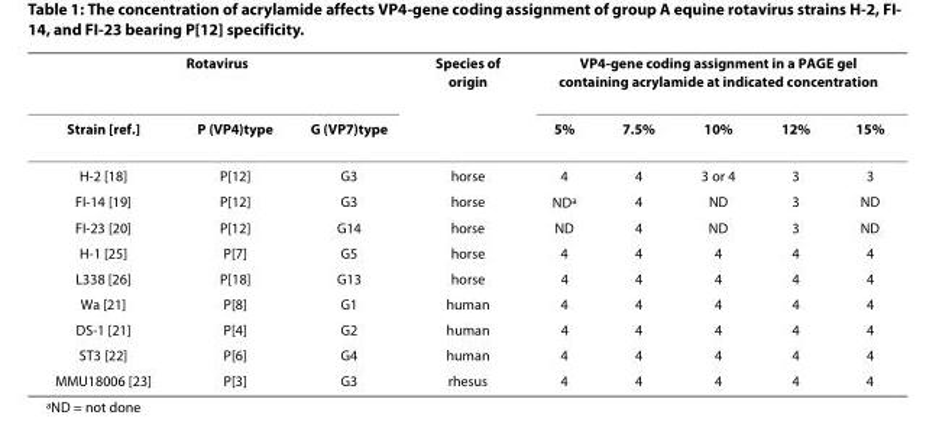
<table><thead><tr><td colspan="3">Rotavirus</td><td rowspan="2">Species of origin</td><td colspan="5">VP4-gene coding assignment in a PAGE gel containing acrylamide at indicated concentration</td></tr><tr><td>Strain [ref.]</td><td>P (VP4)type</td><td>G (VP7)type</td><td>5%</td><td>7.5%</td><td>10%</td><td>12%</td><td>15%</td></tr></thead><tbody><tr><td>H-2 [18]</td><td>P[12]</td><td>G3</td><td>horse</td><td>4</td><td>4</td><td>3 or 4</td><td>3</td><td>3</td></tr><tr><td>FI-14 [19]</td><td>P[12]</td><td>G3</td><td>horse</td><td>ND<sup>a</sup></td><td>4</td><td>ND</td><td>3</td><td>ND</td></tr><tr><td>FI-23 [20]</td><td>P[12]</td><td>G14</td><td>horse</td><td>ND</td><td>4</td><td>ND</td><td>3</td><td>ND</td></tr><tr><td>H-1 [25]</td><td>P[7]</td><td>G5</td><td>horse</td><td>4</td><td>4</td><td>4</td><td>4</td><td>4</td></tr><tr><td>L338 [26]</td><td>P[18]</td><td>G13</td><td>horse</td><td>4</td><td>4</td><td>4</td><td>4</td><td>4</td></tr><tr><td>Wa [21]</td><td>P[8]</td><td>G1</td><td>human</td><td>4</td><td>4</td><td>4</td><td>4</td><td>4</td></tr><tr><td>DS-1 [21]</td><td>P[4]</td><td>G2</td><td>human</td><td>4</td><td>4</td><td>4</td><td>4</td><td>4</td></tr><tr><td>ST3 [22]</td><td>P[6]</td><td>G4</td><td>human</td><td>4</td><td>4</td><td>4</td><td>4</td><td>4</td></tr><tr><td>MMU18006 [23]</td><td>P[3]</td><td>G3</td><td>rhesus</td><td>4</td><td>4</td><td>4</td><td>4</td><td>4</td></tr></tbody></table>